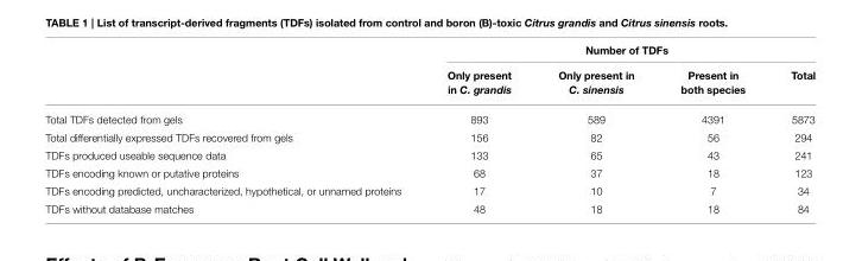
<table><thead><tr><td rowspan="2"></td><td colspan="4">Number of TDFs</td></tr><tr><td>Only present in C. grandis</td><td>Only present in C. sinensis</td><td>Present in both species</td><td>Total</td></tr></thead><tbody><tr><td>Total TDFs detected from gels</td><td>893</td><td>589</td><td>4391</td><td>5873</td></tr><tr><td>Total differentially expressed TDFs recovered from gels</td><td>156</td><td>82</td><td>56</td><td>294</td></tr><tr><td>TDFs produced useable sequence data</td><td>133</td><td>65</td><td>43</td><td>241</td></tr><tr><td>TDFs encoding known or putative proteins</td><td>68</td><td>37</td><td>18</td><td>123</td></tr><tr><td>TDFs encoding predicted, uncharacterized, hypothetical, or unnamed proteins</td><td>17</td><td>10</td><td>7</td><td>34</td></tr><tr><td>TDFs without database matches</td><td>48</td><td>18</td><td>18</td><td>84</td></tr></tbody></table>